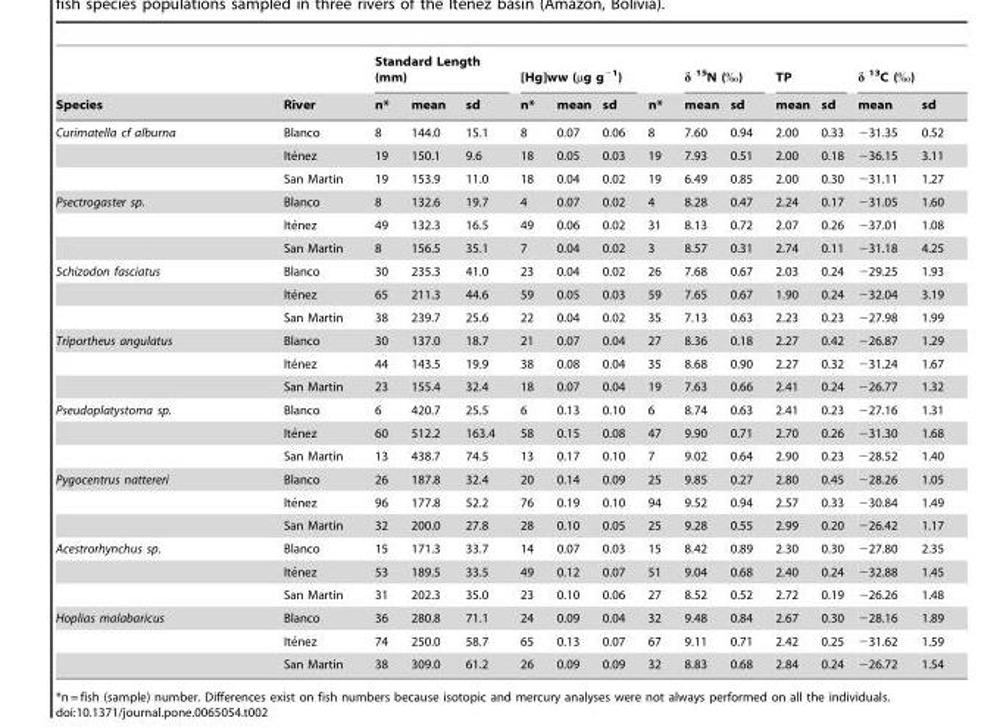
<table><thead><tr><td rowspan="2">Species</td><td rowspan="2">River</td><td colspan="3">Standard Length (mm)</td><td colspan="3">[Hg]ww (µg g<sup>−1</sup>)</td><td rowspan="2">n*</td><td colspan="2">δ <sup>15</sup>N (‰)</td><td colspan="2">TP</td><td colspan="2">δ <sup>13</sup>C (‰)</td></tr><tr><td>n*</td><td>mean</td><td>sd</td><td>n*</td><td>mean</td><td>sd</td><td>mean</td><td>sd</td><td>mean</td><td>sd</td><td>mean</td><td>sd</td></tr></thead><tbody><tr><td rowspan="3">Curimatella cf alburna</td><td>Blanco</td><td>8</td><td>144.0</td><td>15.1</td><td>8</td><td>0.07</td><td>0.06</td><td>8</td><td>7.60</td><td>0.94</td><td>2.00</td><td>0.33</td><td>−31.35</td><td>0.52</td></tr><tr><td>Ite´nez</td><td>19</td><td>150.1</td><td>9.6</td><td>18</td><td>0.05</td><td>0.03</td><td>19</td><td>7.93</td><td>0.51</td><td>2.00</td><td>0.18</td><td>−36.15</td><td>3.11</td></tr><tr><td>San Martin</td><td>19</td><td>153.9</td><td>11.0</td><td>18</td><td>0.04</td><td>0.02</td><td>19</td><td>6.49</td><td>0.85</td><td>2.00</td><td>0.30</td><td>−31.11</td><td>1.27</td></tr><tr><td rowspan="3">Psectrogaster sp.</td><td>Blanco</td><td>8</td><td>132.6</td><td>19.7</td><td>4</td><td>0.07</td><td>0.02</td><td>4</td><td>8.28</td><td>0.47</td><td>2.24</td><td>0.17</td><td>−31.05</td><td>1.60</td></tr><tr><td>Ite´nez</td><td>49</td><td>132.3</td><td>16.5</td><td>49</td><td>0.06</td><td>0.02</td><td>31</td><td>8.13</td><td>0.72</td><td>2.07</td><td>0.26</td><td>−37.01</td><td>1.08</td></tr><tr><td>San Martin</td><td>8</td><td>156.5</td><td>35.1</td><td>7</td><td>0.04</td><td>0.02</td><td>3</td><td>8.57</td><td>0.31</td><td>2.74</td><td>0.11</td><td>−31.18</td><td>4.25</td></tr><tr><td rowspan="3">Schizodon fasciatus</td><td>Blanco</td><td>30</td><td>235.3</td><td>41.0</td><td>23</td><td>0.04</td><td>0.02</td><td>26</td><td>7.68</td><td>0.67</td><td>2.03</td><td>0.24</td><td>−29.25</td><td>1.93</td></tr><tr><td>Ite´nez</td><td>65</td><td>211.3</td><td>44.6</td><td>59</td><td>0.05</td><td>0.03</td><td>59</td><td>7.65</td><td>0.67</td><td>1.90</td><td>0.24</td><td>−32.04</td><td>3.19</td></tr><tr><td>San Martin</td><td>38</td><td>239.7</td><td>25.6</td><td>22</td><td>0.04</td><td>0.02</td><td>35</td><td>7.13</td><td>0.63</td><td>2.23</td><td>0.23</td><td>−27.98</td><td>1.99</td></tr><tr><td rowspan="3">Triportheus angulatus</td><td>Blanco</td><td>30</td><td>137.0</td><td>18.7</td><td>21</td><td>0.07</td><td>0.04</td><td>27</td><td>8.36</td><td>0.18</td><td>2.27</td><td>0.42</td><td>−26.87</td><td>1.29</td></tr><tr><td>Ite´nez</td><td>44</td><td>143.5</td><td>19.9</td><td>38</td><td>0.08</td><td>0.04</td><td>35</td><td>8.68</td><td>0.90</td><td>2.27</td><td>0.32</td><td>−31.24</td><td>1.67</td></tr><tr><td>San Martin</td><td>23</td><td>155.4</td><td>32.4</td><td>18</td><td>0.07</td><td>0.04</td><td>19</td><td>7.63</td><td>0.66</td><td>2.41</td><td>0.24</td><td>−26.77</td><td>1.32</td></tr><tr><td rowspan="3">Pseudoplatystoma sp.</td><td>Blanco</td><td>6</td><td>420.7</td><td>25.5</td><td>6</td><td>0.13</td><td>0.10</td><td>6</td><td>8.74</td><td>0.63</td><td>2.41</td><td>0.23</td><td>−27.16</td><td>1.31</td></tr><tr><td>Ite´nez</td><td>60</td><td>512.2</td><td>163.4</td><td>58</td><td>0.15</td><td>0.08</td><td>47</td><td>9.90</td><td>0.71</td><td>2.70</td><td>0.26</td><td>−31.30</td><td>1.68</td></tr><tr><td>San Martin</td><td>13</td><td>438.7</td><td>74.5</td><td>13</td><td>0.17</td><td>0.10</td><td>7</td><td>9.02</td><td>0.64</td><td>2.90</td><td>0.23</td><td>−28.52</td><td>1.40</td></tr><tr><td rowspan="3">Pygocentrus nattereri</td><td>Blanco</td><td>26</td><td>187.8</td><td>32.4</td><td>20</td><td>0.14</td><td>0.09</td><td>25</td><td>9.85</td><td>0.27</td><td>2.80</td><td>0.45</td><td>−28.26</td><td>1.05</td></tr><tr><td>Ite´nez</td><td>96</td><td>177.8</td><td>52.2</td><td>76</td><td>0.19</td><td>0.10</td><td>94</td><td>9.52</td><td>0.94</td><td>2.57</td><td>0.33</td><td>−30.84</td><td>1.49</td></tr><tr><td>San Martin</td><td>32</td><td>200.0</td><td>27.8</td><td>28</td><td>0.10</td><td>0.05</td><td>25</td><td>9.28</td><td>0.55</td><td>2.99</td><td>0.20</td><td>−26.42</td><td>1.17</td></tr><tr><td rowspan="3">Acestrorhynchus sp.</td><td>Blanco</td><td>15</td><td>171.3</td><td>33.7</td><td>14</td><td>0.07</td><td>0.03</td><td>15</td><td>8.42</td><td>0.89</td><td>2.30</td><td>0.30</td><td>−27.80</td><td>2.35</td></tr><tr><td>Ite´nez</td><td>53</td><td>189.5</td><td>33.5</td><td>49</td><td>0.12</td><td>0.07</td><td>51</td><td>9.04</td><td>0.68</td><td>2.40</td><td>0.24</td><td>−32.88</td><td>1.45</td></tr><tr><td>San Martin</td><td>31</td><td>202.3</td><td>35.0</td><td>23</td><td>0.10</td><td>0.06</td><td>27</td><td>8.52</td><td>0.52</td><td>2.72</td><td>0.19</td><td>−26.26</td><td>1.48</td></tr><tr><td rowspan="3">Hoplias malabaricus</td><td>Blanco</td><td>36</td><td>280.8</td><td>71.1</td><td>24</td><td>0.09</td><td>0.04</td><td>32</td><td>9.48</td><td>0.84</td><td>2.67</td><td>0.30</td><td>−28.16</td><td>1.89</td></tr><tr><td>Ite´nez</td><td>74</td><td>250.0</td><td>58.7</td><td>65</td><td>0.13</td><td>0.07</td><td>67</td><td>9.11</td><td>0.71</td><td>2.42</td><td>0.25</td><td>−31.62</td><td>1.59</td></tr><tr><td>San Martin</td><td>38</td><td>309.0</td><td>61.2</td><td>26</td><td>0.09</td><td>0.09</td><td>32</td><td>8.83</td><td>0.68</td><td>2.84</td><td>0.24</td><td>−26.72</td><td>1.54</td></tr></tbody></table>